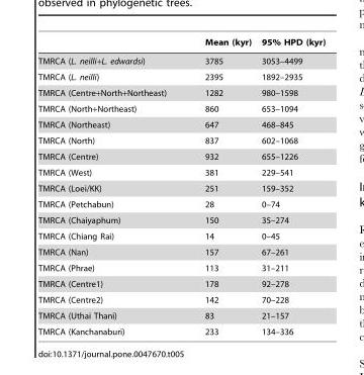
<table><thead><tr><td></td><td>Mean (kyr)</td><td>95% HPD (kyr)</td></tr></thead><tbody><tr><td>TMRCA (L. neilli+L. edwardsi)</td><td>3785</td><td>3053–4499</td></tr><tr><td>TMRCA (L. neilli)</td><td>2395</td><td>1892–2935</td></tr><tr><td>TMRCA (Centre+North+Northeast)</td><td>1282</td><td>980–1598</td></tr><tr><td>TMRCA (North+Northeast)</td><td>860</td><td>653–1094</td></tr><tr><td>TMRCA (Northeast)</td><td>647</td><td>468–845</td></tr><tr><td>TMRCA (North)</td><td>837</td><td>602–1068</td></tr><tr><td>TMRCA (Centre)</td><td>932</td><td>655–1226</td></tr><tr><td>TMRCA (West)</td><td>381</td><td>229–541</td></tr><tr><td>TMRCA (Loei/KK)</td><td>251</td><td>159–352</td></tr><tr><td>TMRCA (Petchabun)</td><td>28</td><td>0–74</td></tr><tr><td>TMRCA (Chaiyaphum)</td><td>150</td><td>35–274</td></tr><tr><td>TMRCA (Chiang Rai)</td><td>14</td><td>0–45</td></tr><tr><td>TMRCA (Nan)</td><td>157</td><td>67–261</td></tr><tr><td>TMRCA (Phrae)</td><td>113</td><td>31–211</td></tr><tr><td>TMRCA (Centre1)</td><td>178</td><td>92–278</td></tr><tr><td>TMRCA (Centre2)</td><td>142</td><td>70–228</td></tr><tr><td>TMRCA (Uthai Thani)</td><td>83</td><td>21–157</td></tr><tr><td>TMRCA (Kanchanaburi)</td><td>233</td><td>134–336</td></tr></tbody></table>